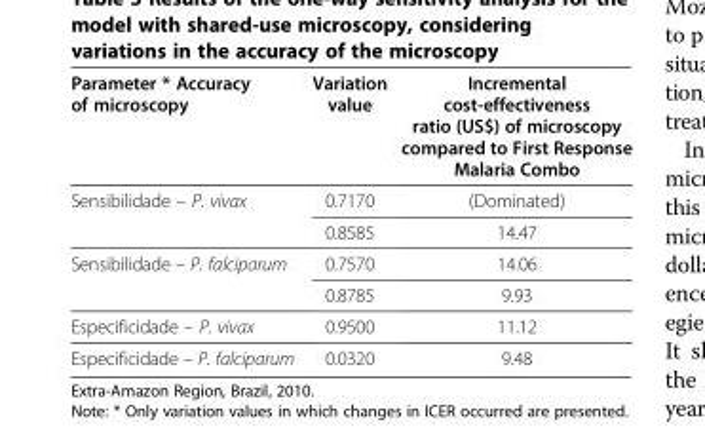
<table><thead><tr><td>Parameter * Accuracy of microscopy</td><td>Variation value</td><td>Incremental cost-effectiveness ratio (US$) of microscopy compared to First Response Malaria Combo</td></tr></thead><tbody><tr><td rowspan="2">Sensibilidade – P. vivax</td><td>0.7170</td><td>(Dominated)</td></tr><tr><td>0.8585</td><td>14.47</td></tr><tr><td rowspan="2">Sensibilidade – P. falciparum</td><td>0.7570</td><td>14.06</td></tr><tr><td>0.8785</td><td>9.93</td></tr><tr><td>Especificidade – P. vivax</td><td>0.9500</td><td>11.12</td></tr><tr><td>Especificidade – P. falciparum</td><td>0.0320</td><td>9.48</td></tr></tbody></table>